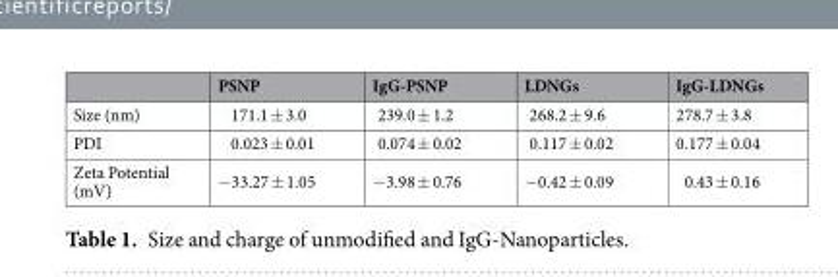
<table><thead><tr><td></td><td>PSNP</td><td>IgG-PSNP</td><td>LDNGs</td><td>IgG-LDNGs</td></tr></thead><tbody><tr><td>Size (nm)</td><td>171.1 ± 3.0</td><td>239.0 ± 1.2</td><td>268.2 ± 9.6</td><td>278.7 ± 3.8</td></tr><tr><td>PDI</td><td>0.023 ± 0.01</td><td>0.074 ± 0.02</td><td>0.117 ± 0.02</td><td>0.177 ± 0.04</td></tr><tr><td>Zeta Potential (mV)</td><td>−33.27 ± 1.05</td><td>−3.98 ± 0.76</td><td>−0.42 ± 0.09</td><td>0.43 ± 0.16</td></tr></tbody></table>